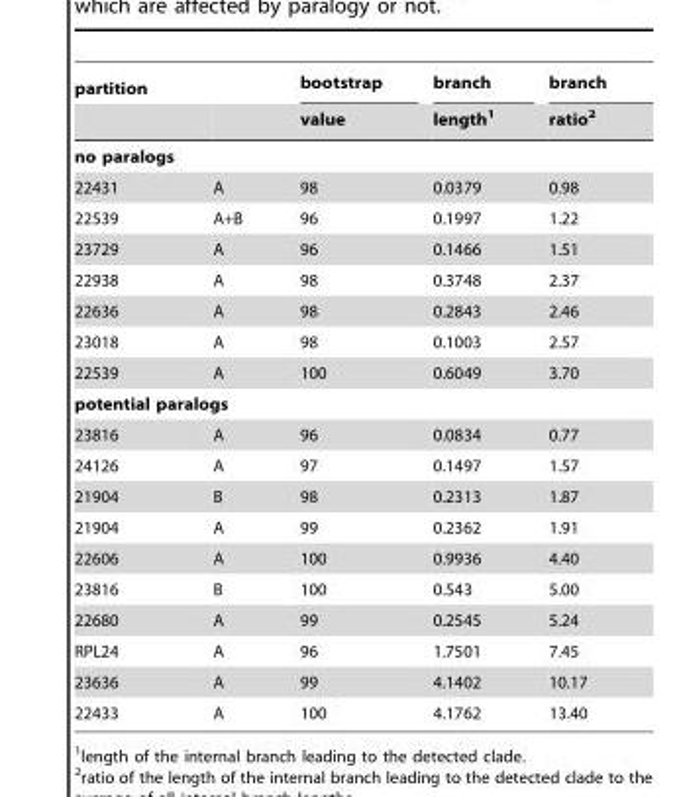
<table><thead><tr><td rowspan="2">partition</td><td rowspan="2"></td><td rowspan="2">bootstrap value</td><td rowspan="2">branch length<sup>1</sup></td><td rowspan="2">branch ratio<sup>2</sup></td></tr><tr></tr></thead><tbody><tr><td colspan="5">no paralogs</td></tr><tr><td>22431</td><td>A</td><td>98</td><td>0.0379</td><td>0.98</td></tr><tr><td>22539</td><td>A+B</td><td>96</td><td>0.1997</td><td>1.22</td></tr><tr><td>23729</td><td>A</td><td>96</td><td>0.1466</td><td>1.51</td></tr><tr><td>22938</td><td>A</td><td>98</td><td>0.3748</td><td>2.37</td></tr><tr><td>22636</td><td>A</td><td>98</td><td>0.2843</td><td>2.46</td></tr><tr><td>23018</td><td>A</td><td>98</td><td>0.1003</td><td>2.57</td></tr><tr><td>22539</td><td>A</td><td>100</td><td>0.6049</td><td>3.70</td></tr><tr><td colspan="5">potential paralogs</td></tr><tr><td>23816</td><td>A</td><td>96</td><td>0.0834</td><td>0.77</td></tr><tr><td>24126</td><td>A</td><td>97</td><td>0.1497</td><td>1.57</td></tr><tr><td>21904</td><td>B</td><td>98</td><td>0.2313</td><td>1.87</td></tr><tr><td>21904</td><td>A</td><td>99</td><td>0.2362</td><td>1.91</td></tr><tr><td>22606</td><td>A</td><td>100</td><td>0.9936</td><td>4.40</td></tr><tr><td>23816</td><td>B</td><td>100</td><td>0.543</td><td>5.00</td></tr><tr><td>22680</td><td>A</td><td>99</td><td>0.2545</td><td>5.24</td></tr><tr><td>RPL24</td><td>A</td><td>96</td><td>1.7501</td><td>7.45</td></tr><tr><td>23636</td><td>A</td><td>99</td><td>4.1402</td><td>10.17</td></tr><tr><td>22433</td><td>A</td><td>100</td><td>4.1762</td><td>13.40</td></tr></tbody></table>